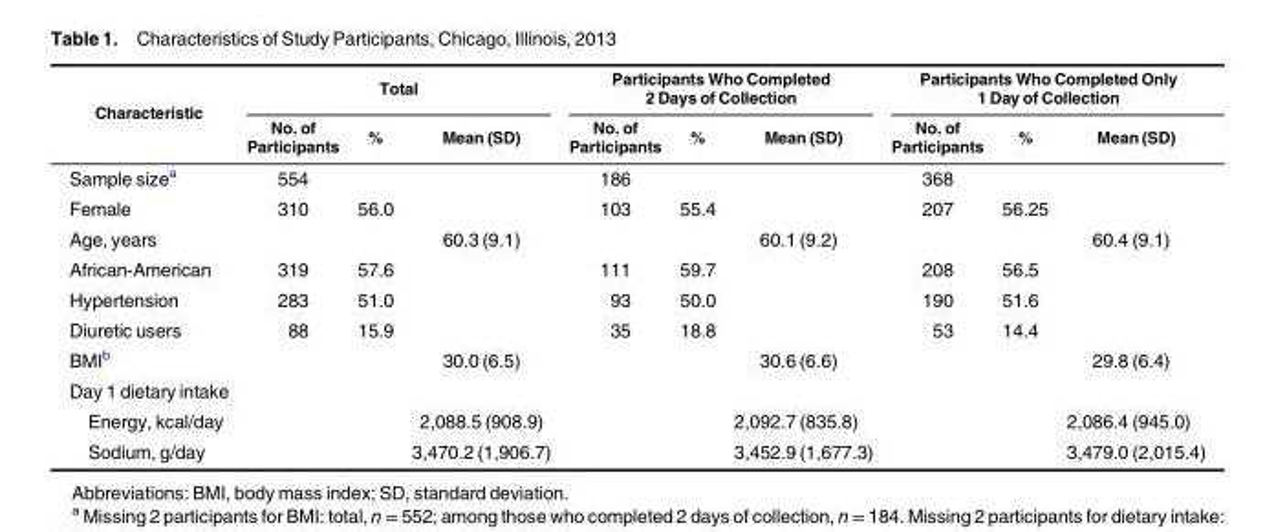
<table><thead><tr><td rowspan="2">Characteristic</td><td colspan="3">Total</td><td colspan="3">Participants Who Completed 2 Days of Collection</td><td colspan="3">Participants Who Completed Only 1 Day of Collection</td></tr><tr><td>No. of Participants</td><td>%</td><td>Mean (SD)</td><td>No. of Participants</td><td>%</td><td>Mean (SD)</td><td>No. of Participants</td><td>%</td><td>Mean (SD)</td></tr></thead><tbody><tr><td>Sample size<sup>a</sup></td><td>554</td><td></td><td></td><td>186</td><td></td><td></td><td>368</td><td></td><td></td></tr><tr><td>Female</td><td>310</td><td>56.0</td><td></td><td>103</td><td>55.4</td><td></td><td>207</td><td>56.25</td><td></td></tr><tr><td>Age, years</td><td></td><td></td><td>60.3 (9.1)</td><td></td><td></td><td>60.1 (9.2)</td><td></td><td></td><td>60.4 (9.1)</td></tr><tr><td>African-American</td><td>319</td><td>57.6</td><td></td><td>111</td><td>59.7</td><td></td><td>208</td><td>56.5</td><td></td></tr><tr><td>Hypertension</td><td>283</td><td>51.0</td><td></td><td>93</td><td>50.0</td><td></td><td>190</td><td>51.6</td><td></td></tr><tr><td>Diuretic users</td><td>88</td><td>15.9</td><td></td><td>35</td><td>18.8</td><td></td><td>53</td><td>14.4</td><td></td></tr><tr><td>BMI<sup>b</sup></td><td></td><td></td><td>30.0 (6.5)</td><td></td><td></td><td>30.6 (6.6)</td><td></td><td></td><td>29.8 (6.4)</td></tr><tr><td colspan="10">Day 1 dietary intake</td></tr><tr><td>Energy, kcal/day</td><td></td><td></td><td>2,088.5 (908.9)</td><td></td><td></td><td>2,092.7 (835.8)</td><td></td><td></td><td>2,086.4 (945.0)</td></tr><tr><td>Sodium, g/day</td><td></td><td></td><td>3,470.2 (1,906.7)</td><td></td><td></td><td>3,452.9 (1,677.3)</td><td></td><td></td><td>3,479.0 (2,015.4)</td></tr></tbody></table>